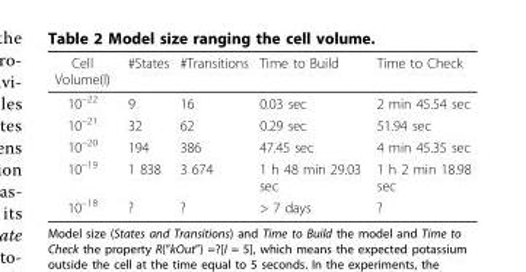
<table><thead><tr><td>Cell Volume(l)</td><td>#States</td><td>#Transitions</td><td>Time to Build</td><td>Time to Check</td></tr></thead><tbody><tr><td>10<sup>–22</sup></td><td>9</td><td>16</td><td>0.03 sec</td><td>2 min 45.54 sec</td></tr><tr><td>10<sup>–21</sup></td><td>32</td><td>62</td><td>0.29 sec</td><td>51.94 sec</td></tr><tr><td>10<sup>–20</sup></td><td>194</td><td>386</td><td>47.45 sec</td><td>4 min 45.35 sec</td></tr><tr><td>10<sup>–19</sup></td><td>1 838</td><td>3 674</td><td>1 h 48 min 29.03 sec</td><td>1 h 2 min 18.98 sec</td></tr><tr><td>10<sup>–18</sup></td><td>?</td><td>?</td><td>&gt; 7 days</td><td>?</td></tr></tbody></table>